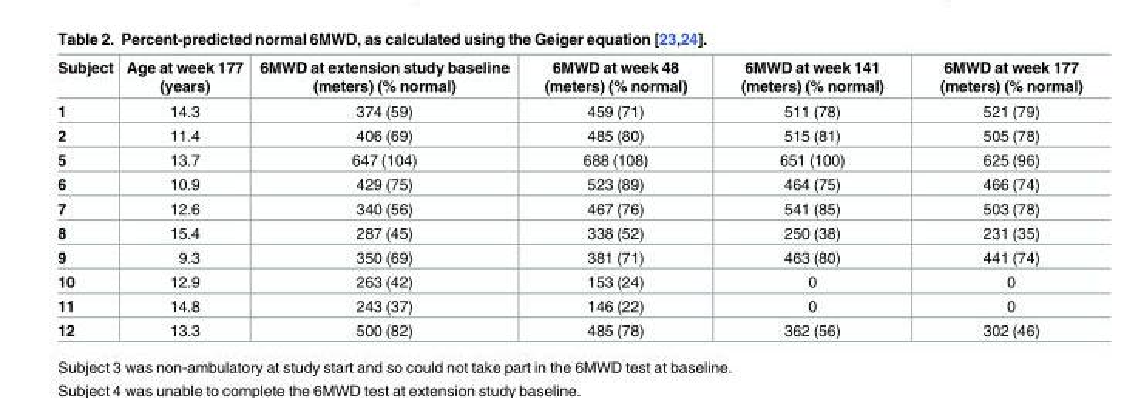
<table><thead><tr><td>Subject</td><td>Age at week 177 (years)</td><td>6MWD at extension study baseline (meters) (% normal)</td><td>6MWD at week 48 (meters) (% normal)</td><td>6MWD at week 141 (meters) (% normal)</td><td>6MWD at week 177 (meters) (% normal)</td></tr></thead><tbody><tr><td>1</td><td>14.3</td><td>374 (59)</td><td>459 (71)</td><td>511 (78)</td><td>521 (79)</td></tr><tr><td>2</td><td>11.4</td><td>406 (69)</td><td>485 (80)</td><td>515 (81)</td><td>505 (78)</td></tr><tr><td>5</td><td>13.7</td><td>647 (104)</td><td>688 (108)</td><td>651 (100)</td><td>625 (96)</td></tr><tr><td>6</td><td>10.9</td><td>429 (75)</td><td>523 (89)</td><td>464 (75)</td><td>466 (74)</td></tr><tr><td>7</td><td>12.6</td><td>340 (56)</td><td>467 (76)</td><td>541 (85)</td><td>503 (78)</td></tr><tr><td>8</td><td>15.4</td><td>287 (45)</td><td>338 (52)</td><td>250 (38)</td><td>231 (35)</td></tr><tr><td>9</td><td>9.3</td><td>350 (69)</td><td>381 (71)</td><td>463 (80)</td><td>441 (74)</td></tr><tr><td>10</td><td>12.9</td><td>263 (42)</td><td>153 (24)</td><td>0</td><td>0</td></tr><tr><td>11</td><td>14.8</td><td>243 (37)</td><td>146 (22)</td><td>0</td><td>0</td></tr><tr><td>12</td><td>13.3</td><td>500 (82)</td><td>485 (78)</td><td>362 (56)</td><td>302 (46)</td></tr></tbody></table>